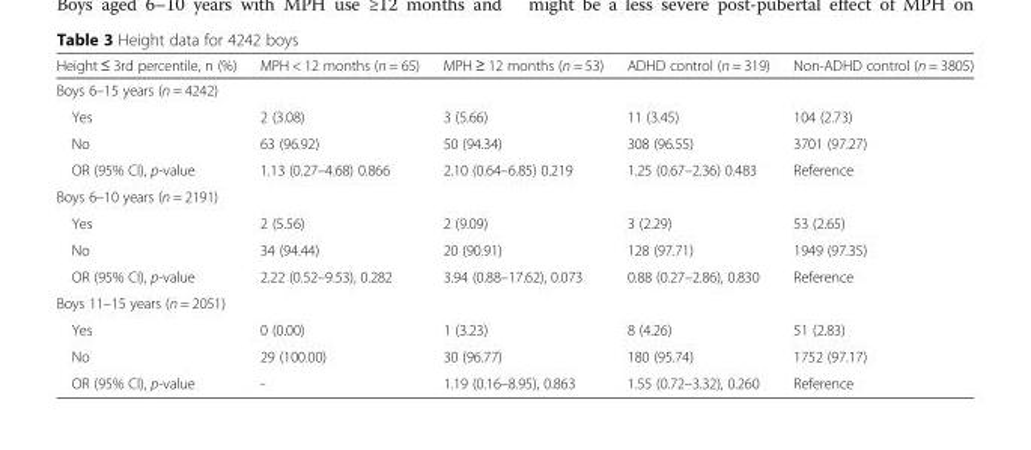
<table><thead><tr><td>Height ≤ 3rd percentile, n (%)</td><td>MPH &lt; 12 months (n = 65)</td><td>MPH ≥ 12 months (n = 53)</td><td>ADHD control (n = 319)</td><td>Non-ADHD control (n = 3805)</td></tr></thead><tbody><tr><td colspan="5">Boys 6–15 years (n = 4242)</td></tr><tr><td>Yes</td><td>2 (3.08)</td><td>3 (5.66)</td><td>11 (3.45)</td><td>104 (2.73)</td></tr><tr><td>No</td><td>63 (96.92)</td><td>50 (94.34)</td><td>308 (96.55)</td><td>3701 (97.27)</td></tr><tr><td>OR (95% CI), p-value</td><td>1.13 (0.27–4.68) 0.866</td><td>2.10 (0.64–6.85) 0.219</td><td>1.25 (0.67–2.36) 0.483</td><td>Reference</td></tr><tr><td colspan="5">Boys 6–10 years (n = 2191)</td></tr><tr><td>Yes</td><td>2 (5.56)</td><td>2 (9.09)</td><td>3 (2.29)</td><td>53 (2.65)</td></tr><tr><td>No</td><td>34 (94.44)</td><td>20 (90.91)</td><td>128 (97.71)</td><td>1949 (97.35)</td></tr><tr><td>OR (95% CI), p-value</td><td>2.22 (0.52–9.53), 0.282</td><td>3.94 (0.88–17.62), 0.073</td><td>0.88 (0.27–2.86), 0.830</td><td>Reference</td></tr><tr><td colspan="5">Boys 11–15 years (n = 2051)</td></tr><tr><td>Yes</td><td>0 (0.00)</td><td>1 (3.23)</td><td>8 (4.26)</td><td>51 (2.83)</td></tr><tr><td>No</td><td>29 (100.00)</td><td>30 (96.77)</td><td>180 (95.74)</td><td>1752 (97.17)</td></tr><tr><td>OR (95% CI), p-value</td><td>-</td><td>1.19 (0.16–8.95), 0.863</td><td>1.55 (0.72–3.32), 0.260</td><td>Reference</td></tr></tbody></table>